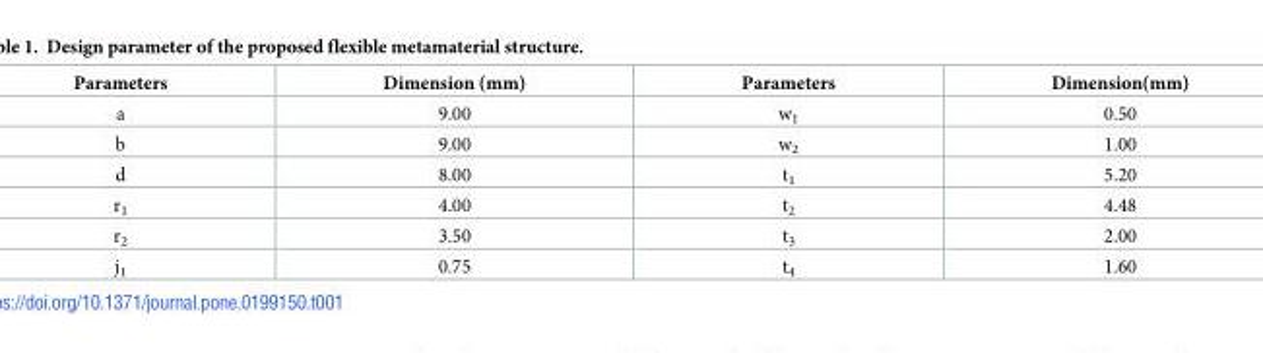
<table><thead><tr><td>Parameters</td><td>Dimension (mm)</td><td>Parameters</td><td>Dimension(mm)</td></tr></thead><tbody><tr><td>a</td><td>9.00</td><td>w<sub>1</sub></td><td>0.50</td></tr><tr><td>b</td><td>9.00</td><td>w<sub>2</sub></td><td>1.00</td></tr><tr><td>d</td><td>8.00</td><td>t<sub>1</sub></td><td>5.20</td></tr><tr><td>r<sub>1</sub></td><td>4.00</td><td>t<sub>2</sub></td><td>4.48</td></tr><tr><td>r<sub>2</sub></td><td>3.50</td><td>t<sub>3</sub></td><td>2.00</td></tr><tr><td>j<sub>1</sub></td><td>0.75</td><td>t<sub>4</sub></td><td>1.60</td></tr></tbody></table>